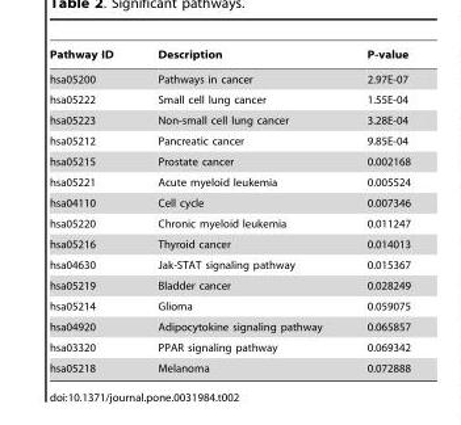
<table><thead><tr><td>Pathway ID</td><td>Description</td><td>P-value</td></tr></thead><tbody><tr><td>hsa05200</td><td>Pathways in cancer</td><td>2.97E-07</td></tr><tr><td>hsa05222</td><td>Small cell lung cancer</td><td>1.55E-04</td></tr><tr><td>hsa05223</td><td>Non-small cell lung cancer</td><td>3.28E-04</td></tr><tr><td>hsa05212</td><td>Pancreatic cancer</td><td>9.85E-04</td></tr><tr><td>hsa05215</td><td>Prostate cancer</td><td>0.002168</td></tr><tr><td>hsa05221</td><td>Acute myeloid leukemia</td><td>0.005524</td></tr><tr><td>hsa04110</td><td>Cell cycle</td><td>0.007346</td></tr><tr><td>hsa05220</td><td>Chronic myeloid leukemia</td><td>0.011247</td></tr><tr><td>hsa05216</td><td>Thyroid cancer</td><td>0.014013</td></tr><tr><td>hsa04630</td><td>Jak-STAT signaling pathway</td><td>0.015367</td></tr><tr><td>hsa05219</td><td>Bladder cancer</td><td>0.028249</td></tr><tr><td>hsa05214</td><td>Glioma</td><td>0.059075</td></tr><tr><td>hsa04920</td><td>Adipocytokine signaling pathway</td><td>0.065857</td></tr><tr><td>hsa03320</td><td>PPAR signaling pathway</td><td>0.069342</td></tr><tr><td>hsa05218</td><td>Melanoma</td><td>0.072888</td></tr></tbody></table>